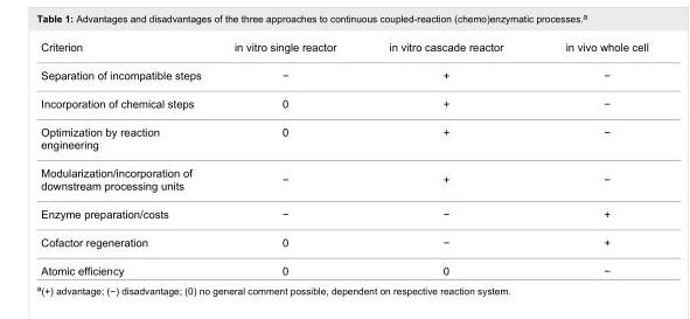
<table><tbody><tr><td>Criterion</td><td>in vitro single reactor</td><td>in vitro cascade reactor</td><td>in vivo whole cell</td></tr><tr><td>Separation of incompatible steps</td><td>−</td><td>+</td><td>−</td></tr><tr><td>Incorporation of chemical steps</td><td>0</td><td>+</td><td>−</td></tr><tr><td>Optimization by reaction engineering</td><td>0</td><td>+</td><td>−</td></tr><tr><td>Modularization/incorporation of downstream processing units</td><td>−</td><td>+</td><td>−</td></tr><tr><td>Enzyme preparation/costs</td><td>−</td><td>−</td><td>+</td></tr><tr><td>Cofactor regeneration</td><td>0</td><td>−</td><td>+</td></tr><tr><td>Atomic efficiency</td><td>0</td><td>0</td><td>−</td></tr></tbody></table>